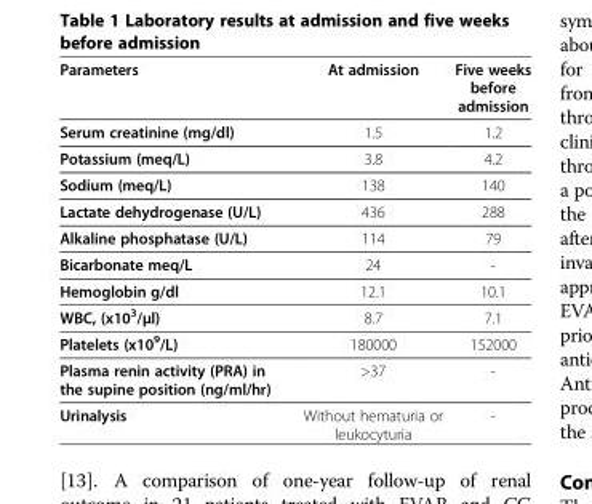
<table><thead><tr><td>Parameters</td><td>At admission</td><td>Five weeks before admission</td></tr></thead><tbody><tr><td>Serum creatinine (mg/dl)</td><td>1.5</td><td>1.2</td></tr><tr><td>Potassium (meq/L)</td><td>3.8</td><td>4.2</td></tr><tr><td>Sodium (meq/L)</td><td>138</td><td>140</td></tr><tr><td>Lactate dehydrogenase (U/L)</td><td>436</td><td>288</td></tr><tr><td>Alkaline phosphatase (U/L)</td><td>114</td><td>79</td></tr><tr><td>Bicarbonate meq/L</td><td>24</td><td>-</td></tr><tr><td>Hemoglobin g/dl</td><td>12.1</td><td>10.1</td></tr><tr><td>WBC, (x10<sup>3</sup>/μl)</td><td>8.7</td><td>7.1</td></tr><tr><td>Platelets (x10<sup>9</sup>/L)</td><td>180000</td><td>152000</td></tr><tr><td>Plasma renin activity (PRA) in the supine position (ng/ml/hr)</td><td>&gt;37</td><td>-</td></tr><tr><td>Urinalysis</td><td>Without hematuria or leukocyturia</td><td>-</td></tr></tbody></table>